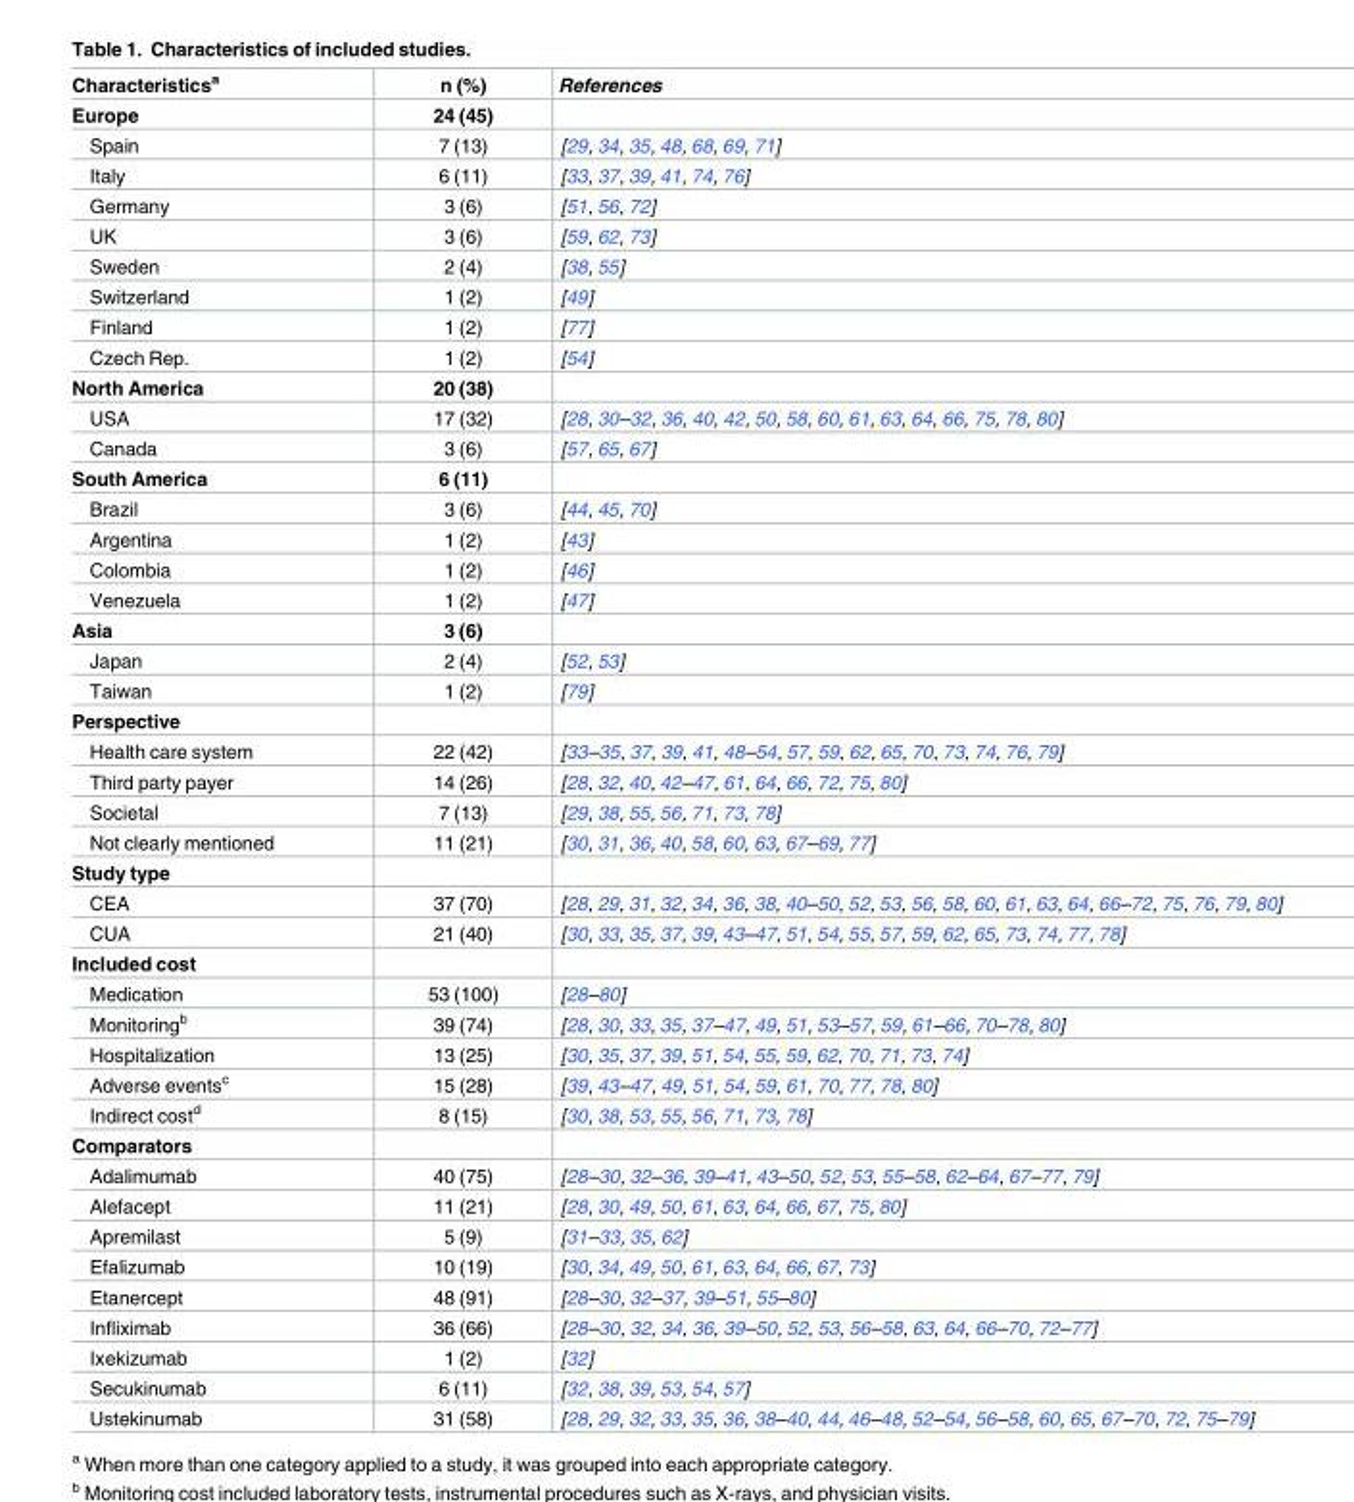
<table><thead><tr><td>Characteristics<sup>a</sup></td><td>n (%)</td><td>References</td></tr></thead><tbody><tr><td>Europe</td><td>24 (45)</td><td></td></tr><tr><td>Spain</td><td>7 (13)</td><td>[29, 34, 35, 48, 68, 69, 71]</td></tr><tr><td>Italy</td><td>6 (11)</td><td>[33, 37, 39, 41, 74, 76]</td></tr><tr><td>Germany</td><td>3 (6)</td><td>[51, 56, 72]</td></tr><tr><td>UK</td><td>3 (6)</td><td>[59, 62, 73]</td></tr><tr><td>Sweden</td><td>2 (4)</td><td>[38, 55]</td></tr><tr><td>Switzerland</td><td>1 (2)</td><td>[49]</td></tr><tr><td>Finland</td><td>1 (2)</td><td>[77]</td></tr><tr><td>Czech Rep.</td><td>1 (2)</td><td>[54]</td></tr><tr><td>North America</td><td>20 (38)</td><td></td></tr><tr><td>USA</td><td>17 (32)</td><td>[28, 30–32, 36, 40, 42, 50, 58, 60, 61, 63, 64, 66, 75, 78, 80]</td></tr><tr><td>Canada</td><td>3 (6)</td><td>[57, 65, 67]</td></tr><tr><td>South America</td><td>6 (11)</td><td></td></tr><tr><td>Brazil</td><td>3 (6)</td><td>[44, 45, 70]</td></tr><tr><td>Argentina</td><td>1 (2)</td><td>[43]</td></tr><tr><td>Colombia</td><td>1 (2)</td><td>[46]</td></tr><tr><td>Venezuela</td><td>1 (2)</td><td>[47]</td></tr><tr><td>Asia</td><td>3 (6)</td><td></td></tr><tr><td>Japan</td><td>2 (4)</td><td>[52, 53]</td></tr><tr><td>Taiwan</td><td>1 (2)</td><td>[79]</td></tr><tr><td colspan="3">Perspective</td></tr><tr><td>Health care system</td><td>22 (42)</td><td>[33–35, 37, 39, 41, 48–54, 57, 59, 62, 65, 70, 73, 74, 76, 79]</td></tr><tr><td>Third party payer</td><td>14 (26)</td><td>[28, 32, 40, 42–47, 61, 64, 66, 72, 75, 80]</td></tr><tr><td>Societal</td><td>7 (13)</td><td>[29, 38, 55, 56, 71, 73, 78]</td></tr><tr><td>Not clearly mentioned</td><td>11 (21)</td><td>[30, 31, 36, 40, 58, 60, 63, 67–69, 77]</td></tr><tr><td colspan="3">Study type</td></tr><tr><td>CEA</td><td>37 (70)</td><td>[28, 29, 31, 32, 34, 36, 38, 40–50, 52, 53, 56, 58, 60, 61, 63, 64, 66–72, 75, 76, 79, 80]</td></tr><tr><td>CUA</td><td>21 (40)</td><td>[30, 33, 35, 37, 39, 43–47, 51, 54, 55, 57, 59, 62, 65, 73, 74, 77, 78]</td></tr><tr><td colspan="3">Included cost</td></tr><tr><td>Medication</td><td>53 (100)</td><td>[28–80]</td></tr><tr><td>Monitoring<sup>b</sup></td><td>39 (74)</td><td>[28, 30, 33, 35, 37–47, 49, 51, 53–57, 59, 61–66, 70–78, 80]</td></tr><tr><td>Hospitalization</td><td>13 (25)</td><td>[30, 35, 37, 39, 51, 54, 55, 59, 62, 70, 71, 73, 74]</td></tr><tr><td>Adverse events<sup>c</sup></td><td>15 (28)</td><td>[39, 43–47, 49, 51, 54, 59, 61, 70, 77, 78, 80]</td></tr><tr><td>Indirect cost<sup>d</sup></td><td>8 (15)</td><td>[30, 38, 53, 55, 56, 71, 73, 78]</td></tr><tr><td colspan="3">Comparators</td></tr><tr><td>Adalimumab</td><td>40 (75)</td><td>[28–30, 32–36, 39–41, 43–50, 52, 53, 55–58, 62–64, 67–77, 79]</td></tr><tr><td>Alefacept</td><td>11 (21)</td><td>[28, 30, 49, 50, 61, 63, 64, 66, 67, 75, 80]</td></tr><tr><td>Apremilast</td><td>5 (9)</td><td>[31–33, 35, 62]</td></tr><tr><td>Efalizumab</td><td>10 (19)</td><td>[30, 34, 49, 50, 61, 63, 64, 66, 67, 73]</td></tr><tr><td>Etanercept</td><td>48 (91)</td><td>[28–30, 32–37, 39–51, 55–80]</td></tr><tr><td>Infliximab</td><td>36 (66)</td><td>[28–30, 32, 34, 36, 39–50, 52, 53, 56–58, 63, 64, 66–70, 72–77]</td></tr><tr><td>Ixekizumab</td><td>1 (2)</td><td>[32]</td></tr><tr><td>Secukinumab</td><td>6 (11)</td><td>[32, 38, 39, 53, 54, 57]</td></tr><tr><td>Ustekinumab</td><td>31 (58)</td><td>[28, 29, 32, 33, 35, 36, 38–40, 44, 46–48, 52–54, 56–58, 60, 65, 67–70, 72, 75–79]</td></tr></tbody></table>